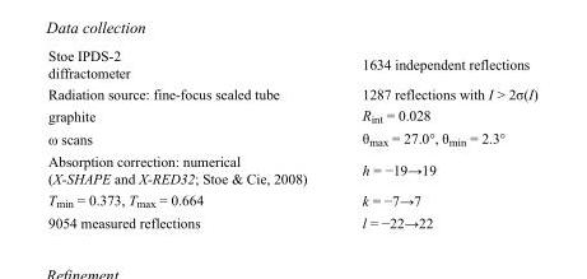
<table><tbody><tr><td>Stoe IPDS-2 diffractometer</td><td>1634 independent reflections</td></tr><tr><td>Radiation source: fine-focus sealed tube</td><td>1287 reflections with I &gt; 2σ(I)</td></tr><tr><td>graphite</td><td>R<sub>int</sub> = 0.028</td></tr><tr><td>ω scans</td><td>θ<sub>max</sub> = 27.0°, θ<sub>min</sub> = 2.3°</td></tr><tr><td>Absorption correction: numerical (X-SHAPE and X-RED32; Stoe &amp; Cie, 2008)</td><td>h = −19→19</td></tr><tr><td>T<sub>min</sub> = 0.373, T<sub>max</sub> = 0.664</td><td>k = −7→7</td></tr><tr><td>9054 measured reflections</td><td>l = −22→22</td></tr></tbody></table>